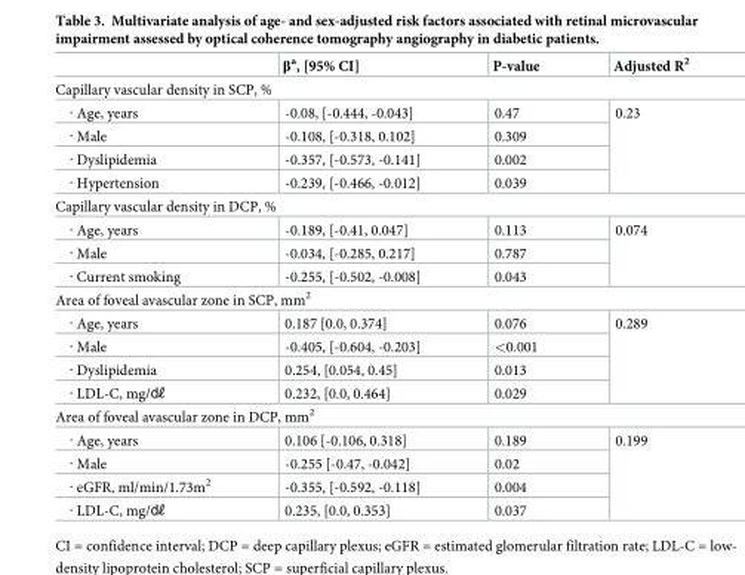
<table><thead><tr><td></td><td>β<sup>a</sup>, [95% CI]</td><td>P-value</td><td>Adjusted R<sup>2</sup></td></tr></thead><tbody><tr><td colspan="4">Capillary vascular density in SCP, %</td></tr><tr><td>‧ Age, years</td><td>-0.08, [-0.444, -0.043]</td><td>0.47</td><td rowspan="4">0.23</td></tr><tr><td>‧ Male</td><td>-0.108, [-0.318, 0.102]</td><td>0.309</td></tr><tr><td>‧ Dyslipidemia</td><td>-0.357, [-0.573, -0.141]</td><td>0.002</td></tr><tr><td>‧ Hypertension</td><td>-0.239, [-0.466, -0.012]</td><td>0.039</td></tr><tr><td colspan="4">Capillary vascular density in DCP, %</td></tr><tr><td>‧ Age, years</td><td>-0.189, [-0.41, 0.047]</td><td>0.113</td><td rowspan="3">0.074</td></tr><tr><td>‧ Male</td><td>-0.034, [-0.285, 0.217]</td><td>0.787</td></tr><tr><td>‧ Current smoking</td><td>-0.255, [-0.502, -0.008]</td><td>0.043</td></tr><tr><td colspan="4">Area of foveal avascular zone in SCP, mm<sup>2</sup></td></tr><tr><td>‧ Age, years</td><td>0.187 [0.0, 0.374]</td><td>0.076</td><td rowspan="4">0.289</td></tr><tr><td>‧ Male</td><td>-0.405, [-0.604, -0.203]</td><td>&lt;0.001</td></tr><tr><td>‧ Dyslipidemia</td><td>0.254, [0.054, 0.45]</td><td>0.013</td></tr><tr><td>‧ LDL-C, mg/㎗</td><td>0.232, [0.0, 0.464]</td><td>0.029</td></tr><tr><td colspan="4">Area of foveal avascular zone in DCP, mm<sup>2</sup></td></tr><tr><td>‧ Age, years</td><td>0.106 [-0.106, 0.318]</td><td>0.189</td><td rowspan="4">0.199</td></tr><tr><td>‧ Male</td><td>-0.255 [-0.47, -0.042]</td><td>0.02</td></tr><tr><td>‧ eGFR, ml/min/1.73m<sup>2</sup></td><td>-0.355, [-0.592, -0.118]</td><td>0.004</td></tr><tr><td>‧ LDL-C, mg/㎗</td><td>0.235, [0.0, 0.353]</td><td>0.037</td></tr></tbody></table>